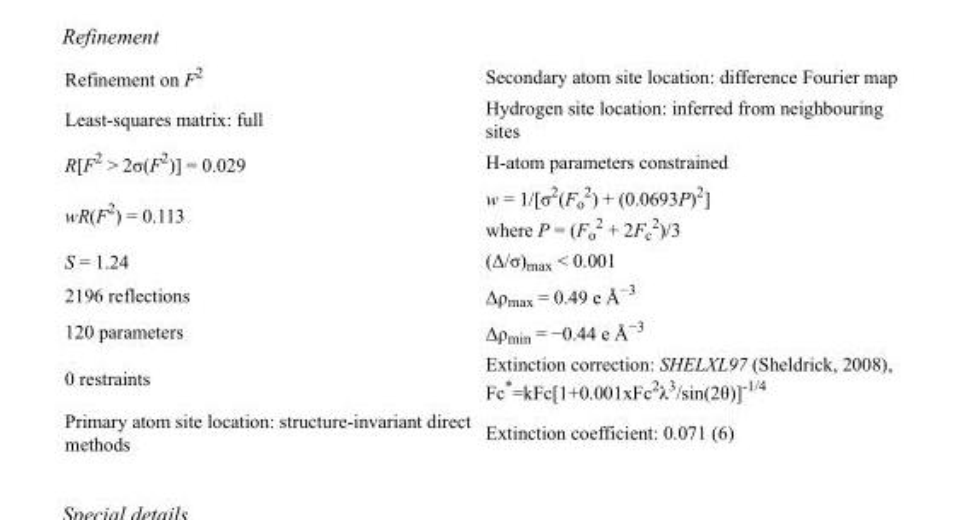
<table><tbody><tr><td>Refinement on F<sup>2</sup></td><td>Secondary atom site location: difference Fourier map</td></tr><tr><td>Least-squares matrix: full</td><td>Hydrogen site location: inferred from neighbouring sites</td></tr><tr><td>R[F<sup>2</sup> &gt; 2σ(F<sup>2</sup>)] = 0.029</td><td>H-atom parameters constrained</td></tr><tr><td>wR(F<sup>2</sup>) = 0.113</td><td>w = 1/[σ<sup>2</sup>(F<sub>o</sub> <sup>2</sup>) + (0.0693P)<sup>2</sup>] where P = (F<sub>o</sub> <sup>2</sup> + 2F<sub>c</sub> <sup>2</sup>)/3</td></tr><tr><td>S = 1.24</td><td>(Δ/σ)<sub>max</sub> &lt; 0.001</td></tr><tr><td>2196 reflections</td><td>Δρ<sub>max</sub> = 0.49 e Å<sup>−3</sup></td></tr><tr><td>120 parameters</td><td>Δρ<sub>min</sub> = −0.44 e Å<sup>−3</sup></td></tr><tr><td>0 restraints</td><td>Extinction correction: SHELXL97 (Sheldrick, 2008), Fc*=kFc[1+0.001xFc<sup>2</sup>λ<sup>3</sup>/sin(2θ)]<sup>-1/4</sup></td></tr><tr><td>Primary atom site location: structure-invariant direct methods</td><td>Extinction coefficient: 0.071 (6)</td></tr></tbody></table>